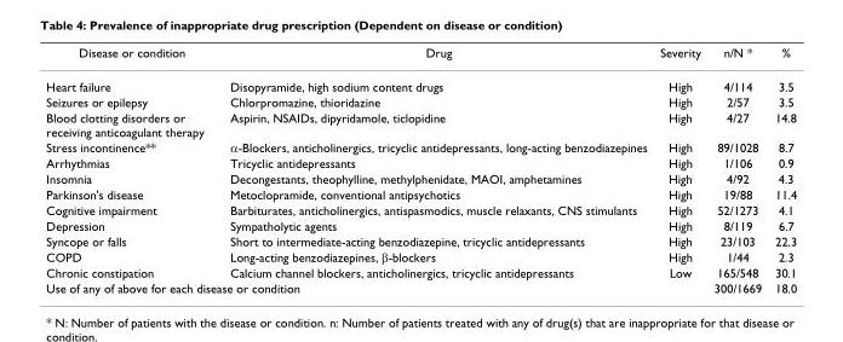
<table><thead><tr><td>Disease or condition</td><td>Drug</td><td>Severity</td><td>n/N *</td><td>%</td></tr></thead><tbody><tr><td>Heart failure</td><td>Disopyramide, high sodium content drugs</td><td>High</td><td>4/114</td><td>3.5</td></tr><tr><td>Seizures or epilepsy</td><td>Chlorpromazine, thioridazine</td><td>High</td><td>2/57</td><td>3.5</td></tr><tr><td>Blood clotting disorders or receiving anticoagulant therapy</td><td>Aspirin, NSAIDs, dipyridamole, ticlopidine</td><td>High</td><td>4/27</td><td>14.8</td></tr><tr><td>Stress incontinence**</td><td>α-Blockers, anticholinergics, tricyclic antidepressants, long-acting benzodiazepines</td><td>High</td><td>89/1028</td><td>8.7</td></tr><tr><td>Arrhythmias</td><td>Tricyclic antidepressants</td><td>High</td><td>1/106</td><td>0.9</td></tr><tr><td>Insomnia</td><td>Decongestants, theophylline, methylphenidate, MAOI, amphetamines</td><td>High</td><td>4/92</td><td>4.3</td></tr><tr><td>Parkinson&#x27;s disease</td><td>Metoclopramide, conventional antipsychotics</td><td>High</td><td>19/88</td><td>11.4</td></tr><tr><td>Cognitive impairment</td><td>Barbiturates, anticholinergics, antispasmodics, muscle relaxants, CNS stimulants</td><td>High</td><td>52/1273</td><td>4.1</td></tr><tr><td>Depression</td><td>Sympatholytic agents</td><td>High</td><td>8/119</td><td>6.7</td></tr><tr><td>Syncope or falls</td><td>Short to intermediate-acting benzodiazepine, tricyclic antidepressants</td><td>High</td><td>23/103</td><td>22.3</td></tr><tr><td>COPD</td><td>Long-acting benzodiazepines, β-blockers</td><td>High</td><td>1/44</td><td>2.3</td></tr><tr><td>Chronic constipation</td><td>Calcium channel blockers, anticholinergics, tricyclic antidepressants</td><td>Low</td><td>165/548</td><td>30.1</td></tr><tr><td colspan="3">Use of any of above for each disease or condition</td><td>300/1669</td><td>18.0</td></tr></tbody></table>